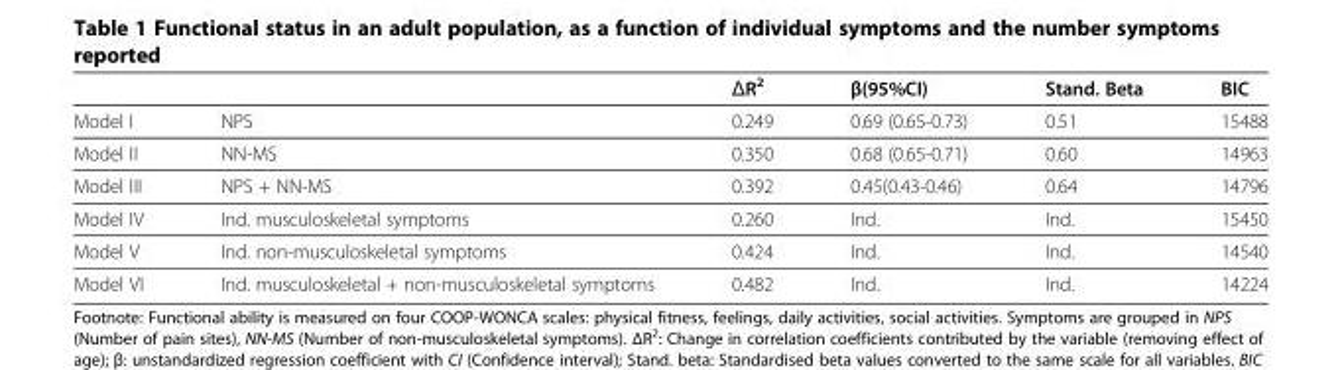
<table><thead><tr><td></td><td></td><td>ΔR<sup>2</sup></td><td>β(95%CI)</td><td>Stand. Beta</td><td>BIC</td></tr></thead><tbody><tr><td>Model I</td><td>NPS</td><td>0.249</td><td>0.69 (0.65-0.73)</td><td>0.51</td><td>15488</td></tr><tr><td>Model II</td><td>NN-MS</td><td>0.350</td><td>0.68 (0.65-0.71)</td><td>0.60</td><td>14963</td></tr><tr><td>Model III</td><td>NPS + NN-MS</td><td>0.392</td><td>0.45(0.43-0.46)</td><td>0.64</td><td>14796</td></tr><tr><td>Model IV</td><td>Ind. musculoskeletal symptoms</td><td>0.260</td><td>Ind.</td><td>Ind.</td><td>15450</td></tr><tr><td>Model V</td><td>Ind. non-musculoskeletal symptoms</td><td>0.424</td><td>Ind.</td><td>Ind.</td><td>14540</td></tr><tr><td>Model VI</td><td>Ind. musculoskeletal + non-musculoskeletal symptoms</td><td>0.482</td><td>Ind.</td><td>Ind.</td><td>14224</td></tr></tbody></table>